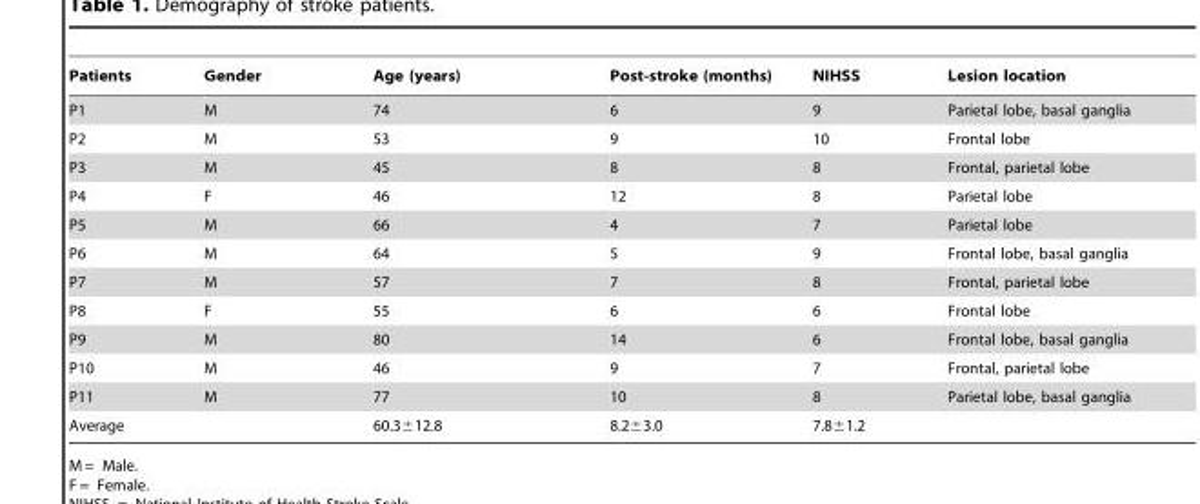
<table><thead><tr><td>Patients</td><td>Gender</td><td>Age (years)</td><td>Post-stroke (months)</td><td>NIHSS</td><td>Lesion location</td></tr></thead><tbody><tr><td>P1</td><td>M</td><td>74</td><td>6</td><td>9</td><td>Parietal lobe, basal ganglia</td></tr><tr><td>P2</td><td>M</td><td>53</td><td>9</td><td>10</td><td>Frontal lobe</td></tr><tr><td>P3</td><td>M</td><td>45</td><td>8</td><td>8</td><td>Frontal, parietal lobe</td></tr><tr><td>P4</td><td>F</td><td>46</td><td>12</td><td>8</td><td>Parietal lobe</td></tr><tr><td>P5</td><td>M</td><td>66</td><td>4</td><td>7</td><td>Parietal lobe</td></tr><tr><td>P6</td><td>M</td><td>64</td><td>5</td><td>9</td><td>Frontal lobe, basal ganglia</td></tr><tr><td>P7</td><td>M</td><td>57</td><td>7</td><td>8</td><td>Frontal, parietal lobe</td></tr><tr><td>P8</td><td>F</td><td>55</td><td>6</td><td>6</td><td>Frontal lobe</td></tr><tr><td>P9</td><td>M</td><td>80</td><td>14</td><td>6</td><td>Frontal lobe, basal ganglia</td></tr><tr><td>P10</td><td>M</td><td>46</td><td>9</td><td>7</td><td>Frontal, parietal lobe</td></tr><tr><td>P11</td><td>M</td><td>77</td><td>10</td><td>8</td><td>Parietal lobe, basal ganglia</td></tr><tr><td>Average</td><td></td><td>60.3±12.8</td><td>8.2±3.0</td><td>7.8±1.2</td><td></td></tr></tbody></table>